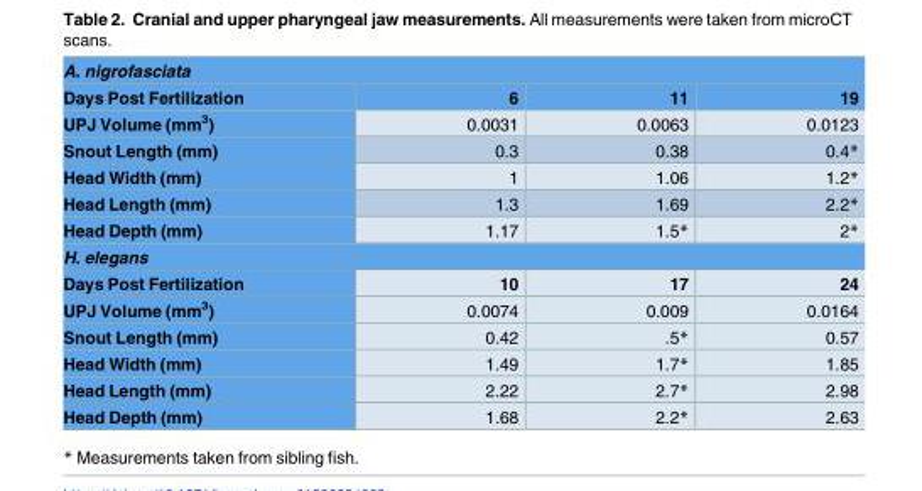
<table><thead><tr><td colspan="4">A. nigrofasciata</td></tr><tr><td>Days Post Fertilization</td><td>6</td><td>11</td><td>19</td></tr></thead><tbody><tr><td>UPJ Volume (mm<sup>3</sup>)</td><td>0.0031</td><td>0.0063</td><td>0.0123</td></tr><tr><td>Snout Length (mm)</td><td>0.3</td><td>0.38</td><td>0.4*</td></tr><tr><td>Head Width (mm)</td><td>1</td><td>1.06</td><td>1.2*</td></tr><tr><td>Head Length (mm)</td><td>1.3</td><td>1.69</td><td>2.2*</td></tr><tr><td>Head Depth (mm)</td><td>1.17</td><td>1.5*</td><td>2*</td></tr><tr><td colspan="4">H. elegans</td></tr><tr><td>Days Post Fertilization</td><td>10</td><td>17</td><td>24</td></tr><tr><td>UPJ Volume (mm<sup>3</sup>)</td><td>0.0074</td><td>0.009</td><td>0.0164</td></tr><tr><td>Snout Length (mm)</td><td>0.42</td><td>.5*</td><td>0.57</td></tr><tr><td>Head Width (mm)</td><td>1.49</td><td>1.7*</td><td>1.85</td></tr><tr><td>Head Length (mm)</td><td>2.22</td><td>2.7*</td><td>2.98</td></tr><tr><td>Head Depth (mm)</td><td>1.68</td><td>2.2*</td><td>2.63</td></tr></tbody></table>